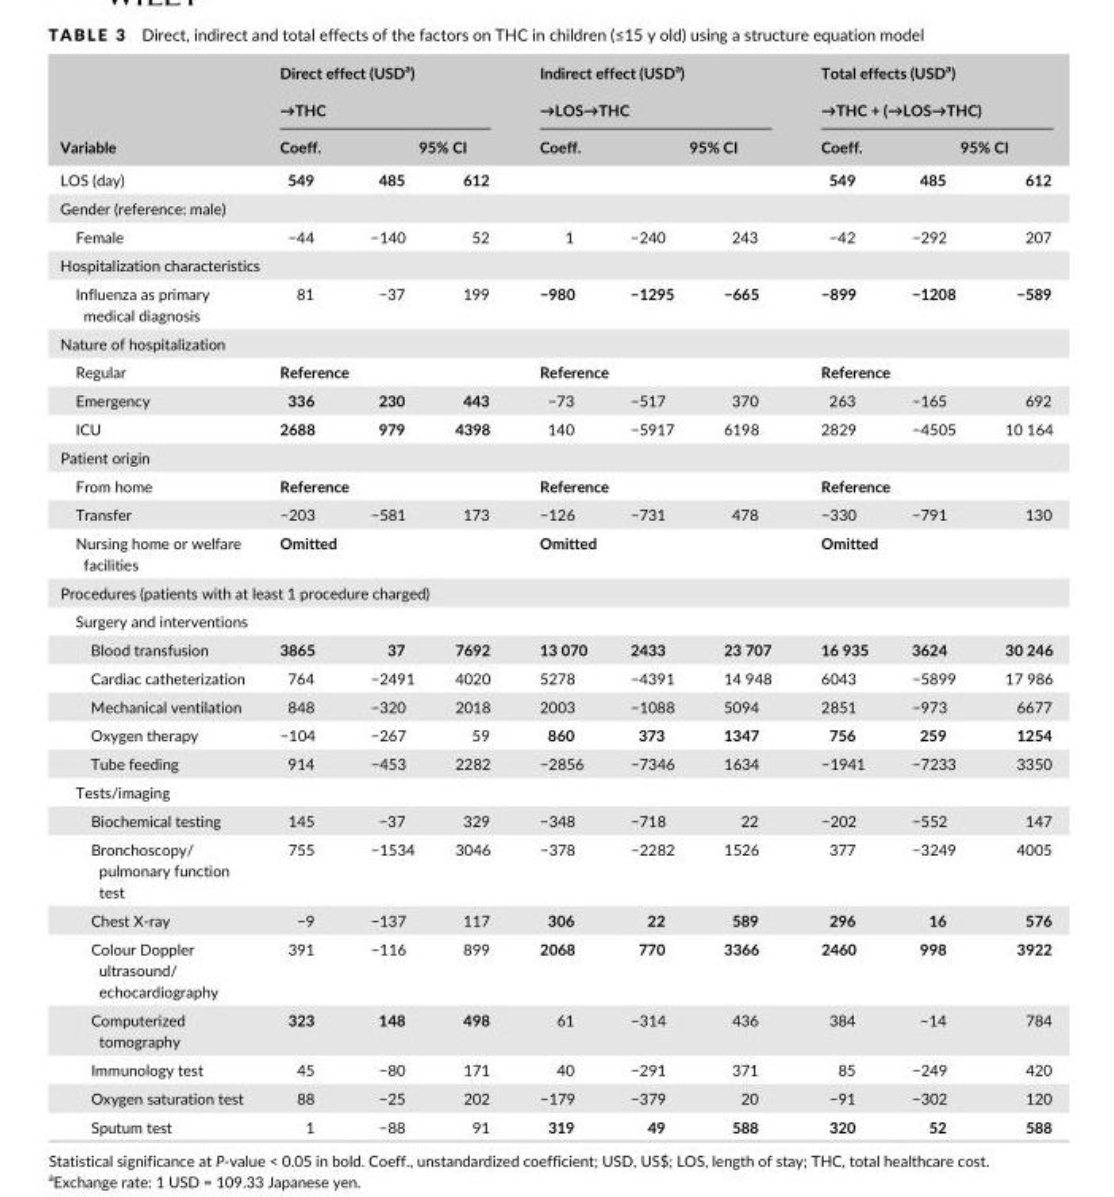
<table><thead><tr><td rowspan="4">Variable LOS (day)</td><td rowspan="2" colspan="3">Direct effect (USD<sup>a</sup>) →THC</td><td rowspan="2" colspan="3">Indirect effect (USD<sup>a</sup>) →LOS→THC</td><td rowspan="2" colspan="3">Total effects (USD<sup>a</sup>) →THC + (→LOS→THC)</td></tr><tr></tr><tr><td rowspan="2">Coeff. 549</td><td colspan="2">95% CI</td><td rowspan="2">Coeff.</td><td colspan="2">95% CI</td><td rowspan="2">Coeff. 549</td><td colspan="2">95% CI</td></tr><tr><td>485</td><td>612</td><td></td><td></td><td>485</td><td>612</td></tr></thead><tbody><tr><td colspan="10">Gender (reference: male)</td></tr><tr><td>Female</td><td>−44</td><td>−140</td><td>52</td><td>1</td><td>−240</td><td>243</td><td>−42</td><td>−292</td><td>207</td></tr><tr><td colspan="10">Hospitalization characteristics</td></tr><tr><td>Influenza as primary medical diagnosis</td><td>81</td><td>−37</td><td>199</td><td>−980</td><td>−1295</td><td>−665</td><td>−899</td><td>−1208</td><td>−589</td></tr><tr><td colspan="10">Nature of hospitalization</td></tr><tr><td>Regular</td><td colspan="3">Reference</td><td colspan="3">Reference</td><td colspan="3">Reference</td></tr><tr><td>Emergency</td><td>336</td><td>230</td><td>443</td><td>−73</td><td>−517</td><td>370</td><td>263</td><td>−165</td><td>692</td></tr><tr><td>ICU</td><td>2688</td><td>979</td><td>4398</td><td>140</td><td>−5917</td><td>6198</td><td>2829</td><td>−4505</td><td>10 164</td></tr><tr><td colspan="10">Patient origin</td></tr><tr><td>From home</td><td colspan="3">Reference</td><td colspan="3">Reference</td><td colspan="3">Reference</td></tr><tr><td>Transfer</td><td>−203</td><td>−581</td><td>173</td><td>−126</td><td>−731</td><td>478</td><td>−330</td><td>−791</td><td>130</td></tr><tr><td>Nursing home or welfare facilities</td><td colspan="3">Omitted</td><td colspan="3">Omitted</td><td colspan="3">Omitted</td></tr><tr><td colspan="10">Procedures (patients with at least 1 procedure charged)</td></tr><tr><td colspan="10">Surgery and interventions</td></tr><tr><td>Blood transfusion</td><td>3865</td><td>37</td><td>7692</td><td>13 070</td><td>2433</td><td>23 707</td><td>16 935</td><td>3624</td><td>30 246</td></tr><tr><td>Cardiac catheterization</td><td>764</td><td>−2491</td><td>4020</td><td>5278</td><td>−4391</td><td>14 948</td><td>6043</td><td>−5899</td><td>17 986</td></tr><tr><td>Mechanical ventilation</td><td>848</td><td>−320</td><td>2018</td><td>2003</td><td>−1088</td><td>5094</td><td>2851</td><td>−973</td><td>6677</td></tr><tr><td>Oxygen therapy</td><td>−104</td><td>−267</td><td>59</td><td>860</td><td>373</td><td>1347</td><td>756</td><td>259</td><td>1254</td></tr><tr><td>Tube feeding</td><td>914</td><td>−453</td><td>2282</td><td>−2856</td><td>−7346</td><td>1634</td><td>−1941</td><td>−7233</td><td>3350</td></tr><tr><td colspan="10">Tests/imaging</td></tr><tr><td>Biochemical testing</td><td>145</td><td>−37</td><td>329</td><td>−348</td><td>−718</td><td>22</td><td>−202</td><td>−552</td><td>147</td></tr><tr><td>Bronchoscopy/ pulmonary function test</td><td>755</td><td>−1534</td><td>3046</td><td>−378</td><td>−2282</td><td>1526</td><td>377</td><td>−3249</td><td>4005</td></tr><tr><td>Chest X- ray</td><td>−9</td><td>−137</td><td>117</td><td>306</td><td>22</td><td>589</td><td>296</td><td>16</td><td>576</td></tr><tr><td>Colour Doppler ultrasound/ echocardiography</td><td>391</td><td>−116</td><td>899</td><td>2068</td><td>770</td><td>3366</td><td>2460</td><td>998</td><td>3922</td></tr><tr><td>Computerized tomography</td><td>323</td><td>148</td><td>498</td><td>61</td><td>−314</td><td>436</td><td>384</td><td>−14</td><td>784</td></tr><tr><td>Immunology test</td><td>45</td><td>−80</td><td>171</td><td>40</td><td>−291</td><td>371</td><td>85</td><td>−249</td><td>420</td></tr><tr><td>Oxygen saturation test</td><td>88</td><td>−25</td><td>202</td><td>−179</td><td>−379</td><td>20</td><td>−91</td><td>−302</td><td>120</td></tr><tr><td>Sputum test</td><td>1</td><td>−88</td><td>91</td><td>319</td><td>49</td><td>588</td><td>320</td><td>52</td><td>588</td></tr></tbody></table>